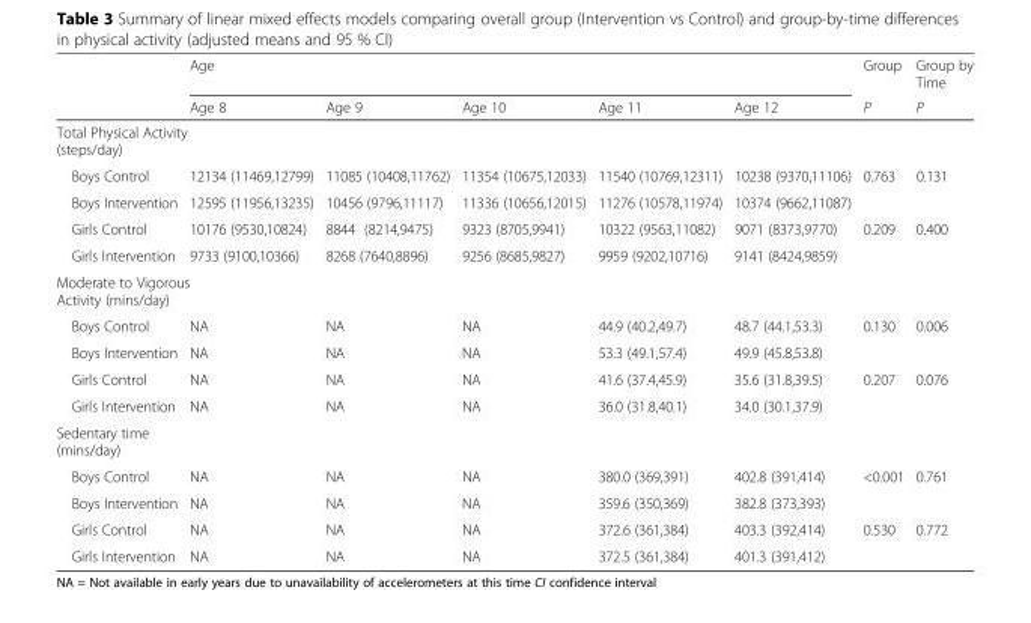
<table><thead><tr><td rowspan="2"></td><td colspan="5">Age</td><td rowspan="2">Group P</td><td rowspan="2">Group by Time P</td></tr><tr><td>Age 8</td><td>Age 9</td><td>Age 10</td><td>Age 11</td><td>Age 12</td></tr></thead><tbody><tr><td colspan="8">Total Physical Activity (steps/day)</td></tr><tr><td>Boys Control</td><td>12134 (11469,12799)</td><td>11085 (10408,11762)</td><td>11354 (10675,12033)</td><td>11540 (10769,12311)</td><td>10238 (9370,11106)</td><td>0.763</td><td>0.131</td></tr><tr><td>Boys Intervention</td><td>12595 (11956,13235)</td><td>10456 (9796,11117)</td><td>11336 (10656,12015)</td><td>11276 (10578,11974)</td><td>10374 (9662,11087)</td><td></td><td></td></tr><tr><td>Girls Control</td><td>10176 (9530,10824)</td><td>8844 (8214,9475)</td><td>9323 (8705,9941)</td><td>10322 (9563,11082)</td><td>9071 (8373,9770)</td><td>0.209</td><td>0.400</td></tr><tr><td>Girls Intervention</td><td>9733 (9100,10366)</td><td>8268 (7640,8896)</td><td>9256 (8685,9827)</td><td>9959 (9202,10716)</td><td>9141 (8424,9859)</td><td></td><td></td></tr><tr><td colspan="8">Moderate to Vigorous Activity (mins/day)</td></tr><tr><td>Boys Control</td><td>NA</td><td>NA</td><td>NA</td><td>44.9 (40.2,49.7)</td><td>48.7 (44.1,53.3)</td><td>0.130</td><td>0.006</td></tr><tr><td>Boys Intervention</td><td>NA</td><td>NA</td><td>NA</td><td>53.3 (49.1,57.4)</td><td>49.9 (45.8,53.8)</td><td></td><td></td></tr><tr><td>Girls Control</td><td>NA</td><td>NA</td><td>NA</td><td>41.6 (37.4,45.9)</td><td>35.6 (31.8,39.5)</td><td>0.207</td><td>0.076</td></tr><tr><td>Girls Intervention</td><td>NA</td><td>NA</td><td>NA</td><td>36.0 (31.8,40.1)</td><td>34.0 (30.1,37.9)</td><td></td><td></td></tr><tr><td colspan="8">Sedentary time (mins/day)</td></tr><tr><td>Boys Control</td><td>NA</td><td>NA</td><td>NA</td><td>380.0 (369,391)</td><td>402.8 (391,414)</td><td>&lt;0.001</td><td>0.761</td></tr><tr><td>Boys Intervention</td><td>NA</td><td>NA</td><td>NA</td><td>359.6 (350,369)</td><td>382.8 (373,393)</td><td></td><td></td></tr><tr><td>Girls Control</td><td>NA</td><td>NA</td><td>NA</td><td>372.6 (361,384)</td><td>403.3 (392,414)</td><td>0.530</td><td>0.772</td></tr><tr><td>Girls Intervention</td><td>NA</td><td>NA</td><td>NA</td><td>372.5 (361,384)</td><td>401.3 (391,412)</td><td></td><td></td></tr></tbody></table>